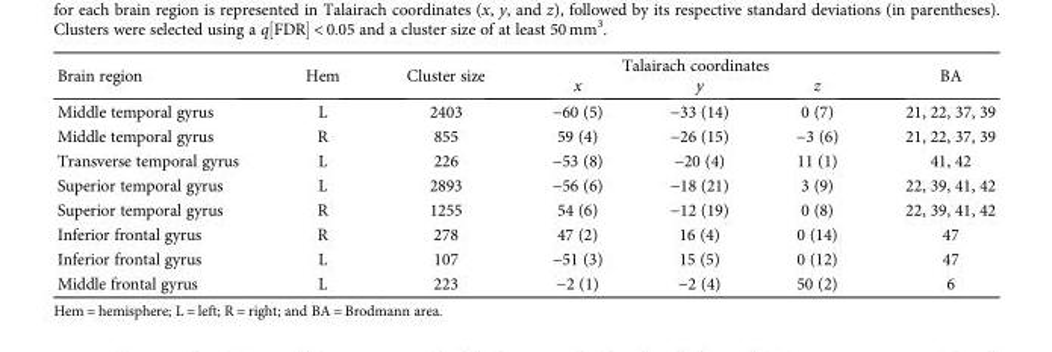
<table><thead><tr><td rowspan="2">Brain region</td><td rowspan="2">Hem</td><td rowspan="2">Cluster size</td><td colspan="3">Talairach coordinates</td><td rowspan="2">BA</td></tr><tr><td>x</td><td>y</td><td>z</td></tr></thead><tbody><tr><td>Middle temporal gyrus</td><td>L</td><td>2403</td><td>−60 (5)</td><td>−33 (14)</td><td>0 (7)</td><td>21, 22, 37, 39</td></tr><tr><td>Middle temporal gyrus</td><td>R</td><td>855</td><td>59 (4)</td><td>−26 (15)</td><td>−3 (6)</td><td>21, 22, 37, 39</td></tr><tr><td>Transverse temporal gyrus</td><td>L</td><td>226</td><td>−53 (8)</td><td>−20 (4)</td><td>11 (1)</td><td>41, 42</td></tr><tr><td>Superior temporal gyrus</td><td>L</td><td>2893</td><td>−56 (6)</td><td>−18 (21)</td><td>3 (9)</td><td>22, 39, 41, 42</td></tr><tr><td>Superior temporal gyrus</td><td>R</td><td>1255</td><td>54 (6)</td><td>−12 (19)</td><td>0 (8)</td><td>22, 39, 41, 42</td></tr><tr><td>Inferior frontal gyrus</td><td>R</td><td>278</td><td>47 (2)</td><td>16 (4)</td><td>0 (14)</td><td>47</td></tr><tr><td>Inferior frontal gyrus</td><td>L</td><td>107</td><td>−51 (3)</td><td>15 (5)</td><td>0 (12)</td><td>47</td></tr><tr><td>Middle frontal gyrus</td><td>L</td><td>223</td><td>−2 (1)</td><td>−2 (4)</td><td>50 (2)</td><td>6</td></tr></tbody></table>